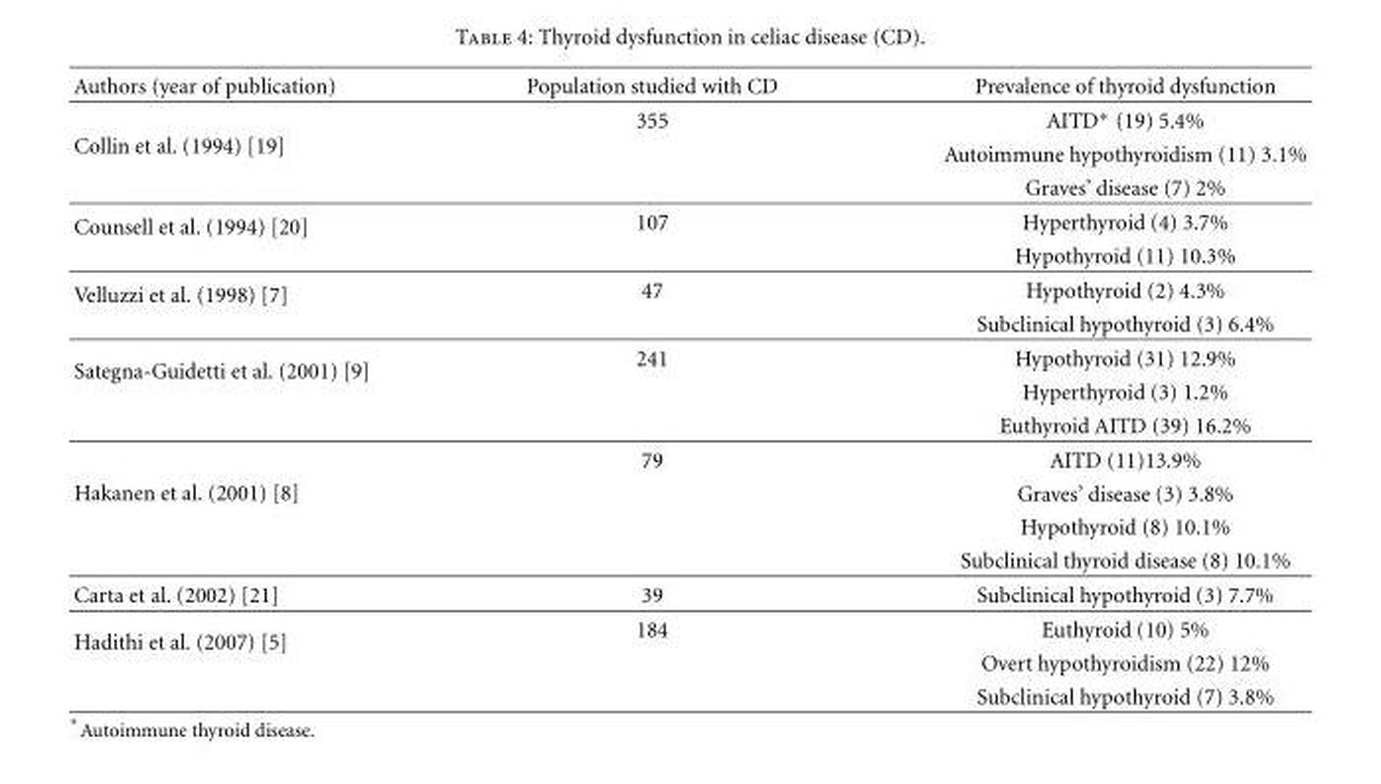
<table><thead><tr><td>Authors (year of publication)</td><td>Population studied with CD</td><td>Prevalence of thyroid dysfunction</td></tr></thead><tbody><tr><td rowspan="3">Collin et al. (1994) [19]</td><td>355</td><td>AITD∗ (19) 5.4%</td></tr><tr><td></td><td>Autoimmune hypothyroidism (11) 3.1%</td></tr><tr><td></td><td>Graves’ disease (7) 2%</td></tr><tr><td rowspan="2">Counsell et al. (1994) [20]</td><td>107</td><td>Hyperthyroid (4) 3.7%</td></tr><tr><td></td><td>Hypothyroid (11) 10.3%</td></tr><tr><td rowspan="2">Velluzzi et al. (1998) [7]</td><td>47</td><td>Hypothyroid (2) 4.3%</td></tr><tr><td></td><td>Subclinical hypothyroid (3) 6.4%</td></tr><tr><td rowspan="3">Sategna-Guidetti et al. (2001) [9]</td><td>241</td><td>Hypothyroid (31) 12.9%</td></tr><tr><td></td><td>Hyperthyroid (3) 1.2%</td></tr><tr><td></td><td>Euthyroid AITD (39) 16.2%</td></tr><tr><td rowspan="4">Hakanen et al. (2001) [8]</td><td>79</td><td>AITD (11)13.9%</td></tr><tr><td></td><td>Graves’ disease (3) 3.8%</td></tr><tr><td></td><td>Hypothyroid (8) 10.1%</td></tr><tr><td></td><td>Subclinical thyroid disease (8) 10.1%</td></tr><tr><td>Carta et al. (2002) [21]</td><td>39</td><td>Subclinical hypothyroid (3) 7.7%</td></tr><tr><td rowspan="3">Hadithi et al. (2007) [5]</td><td>184</td><td>Euthyroid (10) 5%</td></tr><tr><td></td><td>Overt hypothyroidism (22) 12%</td></tr><tr><td></td><td>Subclinical hypothyroid (7) 3.8%</td></tr></tbody></table>